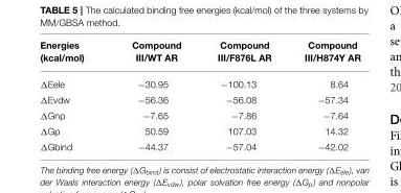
<table><thead><tr><td>Energies (kcal/mol)</td><td>Compound III/WT AR</td><td>Compound III/F876L AR</td><td>Compound III/H874Y AR</td></tr></thead><tbody><tr><td>ΔEele</td><td>−30.95</td><td>−100.13</td><td>8.64</td></tr><tr><td>ΔEvdw</td><td>−56.36</td><td>−56.08</td><td>−57.34</td></tr><tr><td>ΔGnp</td><td>−7.65</td><td>−7.86</td><td>−7.64</td></tr><tr><td>ΔGp</td><td>50.59</td><td>107.03</td><td>14.32</td></tr><tr><td>ΔGbind</td><td>−44.37</td><td>−57.04</td><td>−42.02</td></tr></tbody></table>